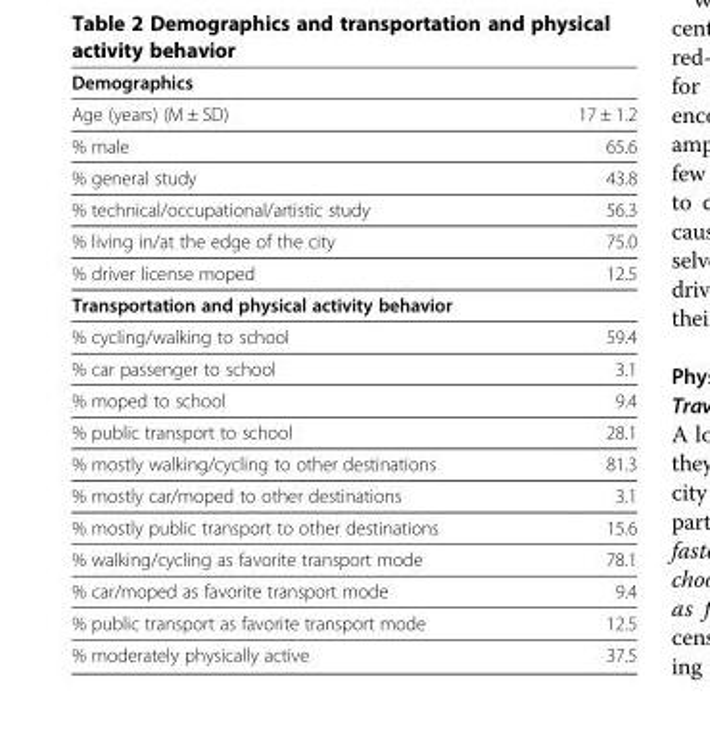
<table><thead><tr><td>Demographics</td><td></td></tr></thead><tbody><tr><td>Age (years) (M ± SD)</td><td>17 ± 1.2</td></tr><tr><td>% male</td><td>65.6</td></tr><tr><td>% general study</td><td>43.8</td></tr><tr><td>% technical/occupational/artistic study</td><td>56.3</td></tr><tr><td>% living in/at the edge of the city</td><td>75.0</td></tr><tr><td>% driver license moped</td><td>12.5</td></tr><tr><td colspan="2">Transportation and physical activity behavior</td></tr><tr><td>% cycling/walking to school</td><td>59.4</td></tr><tr><td>% car passenger to school</td><td>3.1</td></tr><tr><td>% moped to school</td><td>9.4</td></tr><tr><td>% public transport to school</td><td>28.1</td></tr><tr><td>% mostly walking/cycling to other destinations</td><td>81.3</td></tr><tr><td>% mostly car/moped to other destinations</td><td>3.1</td></tr><tr><td>% mostly public transport to other destinations</td><td>15.6</td></tr><tr><td>% walking/cycling as favorite transport mode</td><td>78.1</td></tr><tr><td>% car/moped as favorite transport mode</td><td>9.4</td></tr><tr><td>% public transport as favorite transport mode</td><td>12.5</td></tr><tr><td>% moderately physically active</td><td>37.5</td></tr></tbody></table>